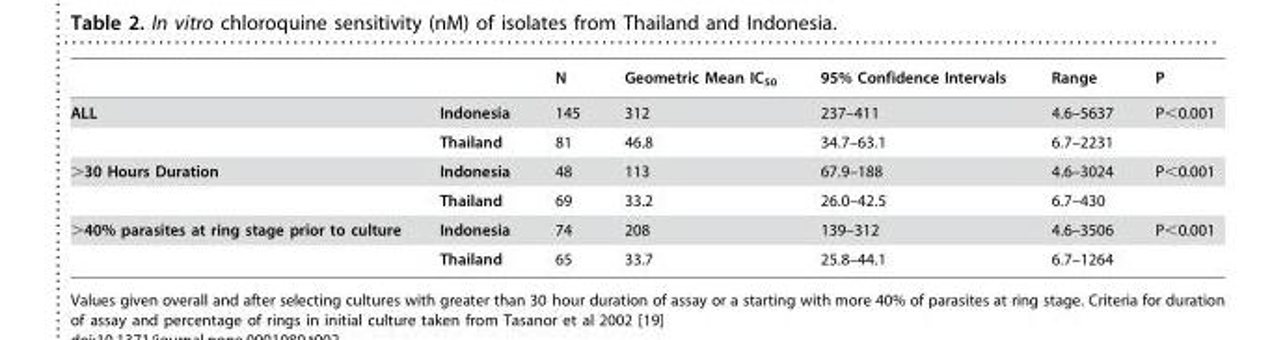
<table><thead><tr><td></td><td></td><td>N</td><td>Geometric Mean IC<sub>50</sub></td><td>95% Confidence Intervals</td><td>Range</td><td>P</td></tr></thead><tbody><tr><td rowspan="2">ALL</td><td>Indonesia</td><td>145</td><td>312</td><td>237–411</td><td>4.6–5637</td><td>P&lt;0.001</td></tr><tr><td>Thailand</td><td>81</td><td>46.8</td><td>34.7–63.1</td><td>6.7–2231</td><td></td></tr><tr><td rowspan="2">&gt;30 Hours Duration</td><td>Indonesia</td><td>48</td><td>113</td><td>67.9–188</td><td>4.6–3024</td><td>P&lt;0.001</td></tr><tr><td>Thailand</td><td>69</td><td>33.2</td><td>26.0–42.5</td><td>6.7–430</td><td></td></tr><tr><td rowspan="2">&gt;40% parasites at ring stage prior to culture</td><td>Indonesia</td><td>74</td><td>208</td><td>139–312</td><td>4.6–3506</td><td>P&lt;0.001</td></tr><tr><td>Thailand</td><td>65</td><td>33.7</td><td>25.8–44.1</td><td>6.7–1264</td><td></td></tr></tbody></table>